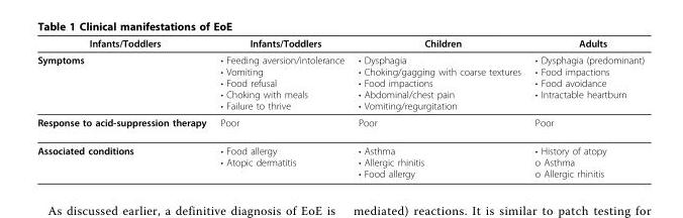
<table><thead><tr><td>Infants/Toddlers</td><td>Infants/Toddlers</td><td>Children</td><td>Adults</td></tr></thead><tbody><tr><td>Symptoms</td><td>• Feeding aversion/intolerance • Vomiting • Food refusal • Choking with meals • Failure to thrive</td><td>• Dysphagia • Choking/gagging with coarse textures • Food impactions • Abdominal/chest pain • Vomiting/regurgitation</td><td>• Dysphagia (predominant) • Food impactions • Food avoidance • Intractable heartburn</td></tr><tr><td>Response to acid-suppression therapy</td><td>Poor</td><td>Poor</td><td>Poor</td></tr><tr><td>Associated conditions</td><td>• Food allergy • Atopic dermatitis</td><td>• Asthma • Allergic rhinitis • Food allergy</td><td>• History of atopy ο Asthma ο Allergic rhinitis</td></tr></tbody></table>